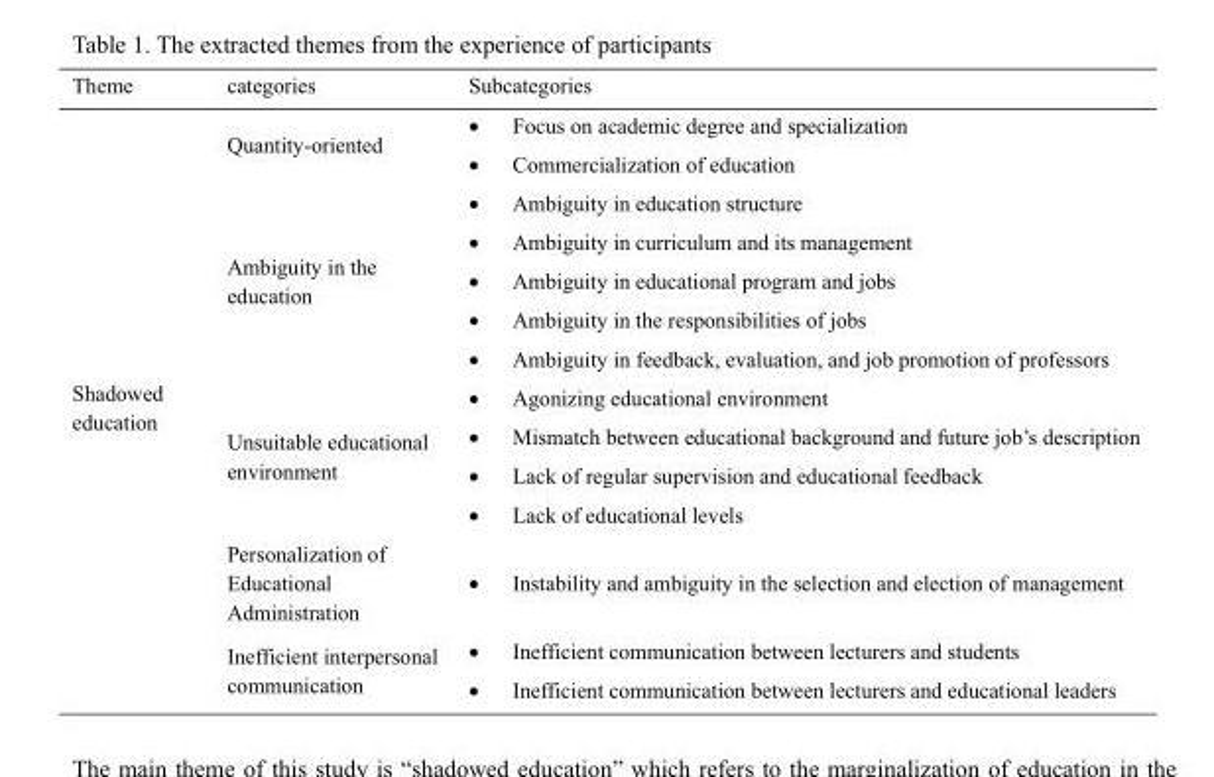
<table><thead><tr><td>Theme</td><td>categories</td><td>Subcategories</td></tr></thead><tbody><tr><td rowspan="5">Shadowed education</td><td>Quantity-oriented</td><td>• Focus on academic degree and specialization • Commercialization of education</td></tr><tr><td>Ambiguity in the education</td><td>• Ambiguity in education structure • Ambiguity in curriculum and its management • Ambiguity in educational program and jobs • Ambiguity in the responsibilities of jobs • Ambiguity in feedback, evaluation, and job promotion of professors</td></tr><tr><td>Unsuitable educational environment</td><td>• Agonizing educational environment • Mismatch between educational background and future job’s description • Lack of regular supervision and educational feedback • Lack of educational levels</td></tr><tr><td>Personalization of Educational Administration</td><td>• Instability and ambiguity in the selection and election of management</td></tr><tr><td>Inefficient interpersonal communication</td><td>• Inefficient communication between lecturers and students • Inefficient communication between lecturers and educational leaders</td></tr></tbody></table>